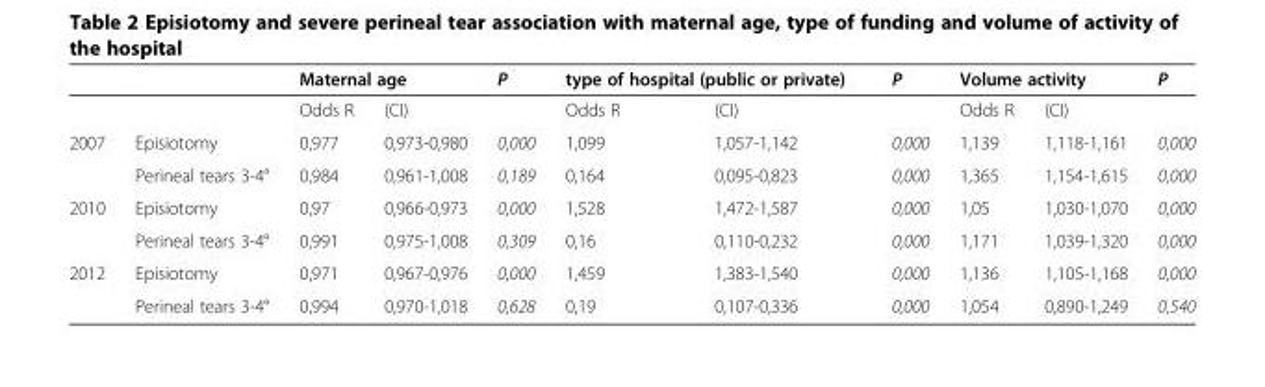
<table><thead><tr><td rowspan="2"></td><td rowspan="2"></td><td colspan="2">Maternal age</td><td rowspan="2">P</td><td colspan="2">type of hospital (public or private)</td><td rowspan="2">P</td><td colspan="2">Volume activity</td><td rowspan="2">P</td></tr><tr><td>Odds R</td><td>(CI)</td><td>Odds R</td><td>(CI)</td><td>Odds R</td><td>(CI)</td></tr></thead><tbody><tr><td rowspan="2">2007</td><td>Episiotomy</td><td>0,977</td><td>0,973-0,980</td><td>0,000</td><td>1,099</td><td>1,057-1,142</td><td>0,000</td><td>1,139</td><td>1,118-1,161</td><td>0,000</td></tr><tr><td>Perineal tears 3-4°</td><td>0,984</td><td>0,961-1,008</td><td>0,189</td><td>0,164</td><td>0,095-0,823</td><td>0,000</td><td>1,365</td><td>1,154-1,615</td><td>0,000</td></tr><tr><td rowspan="2">2010</td><td>Episiotomy</td><td>0,97</td><td>0,966-0,973</td><td>0,000</td><td>1,528</td><td>1,472-1,587</td><td>0,000</td><td>1,05</td><td>1,030-1,070</td><td>0,000</td></tr><tr><td>Perineal tears 3-4°</td><td>0,991</td><td>0,975-1,008</td><td>0,309</td><td>0,16</td><td>0,110-0,232</td><td>0,000</td><td>1,171</td><td>1,039-1,320</td><td>0,000</td></tr><tr><td rowspan="2">2012</td><td>Episiotomy</td><td>0,971</td><td>0,967-0,976</td><td>0,000</td><td>1,459</td><td>1,383-1,540</td><td>0,000</td><td>1,136</td><td>1,105-1,168</td><td>0,000</td></tr><tr><td>Perineal tears 3-4°</td><td>0,994</td><td>0,970-1,018</td><td>0,628</td><td>0,19</td><td>0,107-0,336</td><td>0,000</td><td>1,054</td><td>0,890-1,249</td><td>0,540</td></tr></tbody></table>